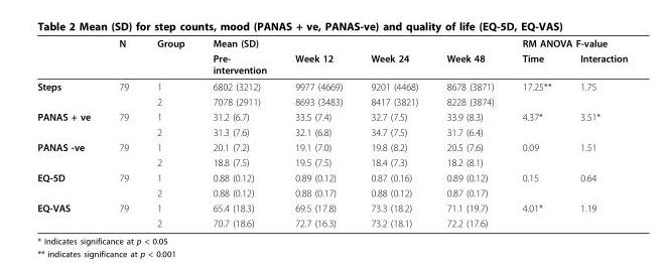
<table><thead><tr><td rowspan="2"></td><td rowspan="2">N</td><td rowspan="2">Group</td><td colspan="4">Mean (SD)</td><td colspan="2">RM ANOVA F-value</td></tr><tr><td>Pre- intervention</td><td>Week 12</td><td>Week 24</td><td>Week 48</td><td>Time</td><td>Interaction</td></tr></thead><tbody><tr><td rowspan="2">Steps</td><td>79</td><td>1</td><td>6802 (3212)</td><td>9977 (4669)</td><td>9201 (4468)</td><td>8678 (3871)</td><td>17.25**</td><td>1.75</td></tr><tr><td></td><td>2</td><td>7078 (2911)</td><td>8693 (3483)</td><td>8417 (3821)</td><td>8228 (3874)</td><td></td><td></td></tr><tr><td rowspan="2">PANAS + ve</td><td>79</td><td>1</td><td>31.2 (6.7)</td><td>33.5 (7.4)</td><td>32.7 (7.5)</td><td>33.9 (8.3)</td><td>4.37*</td><td>3.51*</td></tr><tr><td></td><td>2</td><td>31.3 (7.6)</td><td>32.1 (6.8)</td><td>34.7 (7.5)</td><td>31.7 (6.4)</td><td></td><td></td></tr><tr><td rowspan="2">PANAS -ve</td><td>79</td><td>1</td><td>20.1 (7.2)</td><td>19.1 (7.0)</td><td>19.8 (8.2)</td><td>20.5 (7.6)</td><td>0.09</td><td>1.51</td></tr><tr><td></td><td>2</td><td>18.8 (7.5)</td><td>19.5 (7.5)</td><td>18.4 (7.3)</td><td>18.2 (8.1)</td><td></td><td></td></tr><tr><td rowspan="2">EQ-5D</td><td>79</td><td>1</td><td>0.88 (0.12)</td><td>0.89 (0.12)</td><td>0.87 (0.16)</td><td>0.89 (0.12)</td><td>0.15</td><td>0.64</td></tr><tr><td></td><td>2</td><td>0.88 (0.12)</td><td>0.88 (0.17)</td><td>0.88 (0.12)</td><td>0.87 (0.17)</td><td></td><td></td></tr><tr><td rowspan="2">EQ-VAS</td><td>79</td><td>1</td><td>65.4 (18.3)</td><td>69.5 (17.8)</td><td>73.3 (18.2)</td><td>71.1 (19.7)</td><td>4.01*</td><td>1.19</td></tr><tr><td></td><td>2</td><td>70.7 (18.6)</td><td>72.7 (16.3)</td><td>73.2 (18.1)</td><td>72.2 (17.6)</td><td></td><td></td></tr></tbody></table>